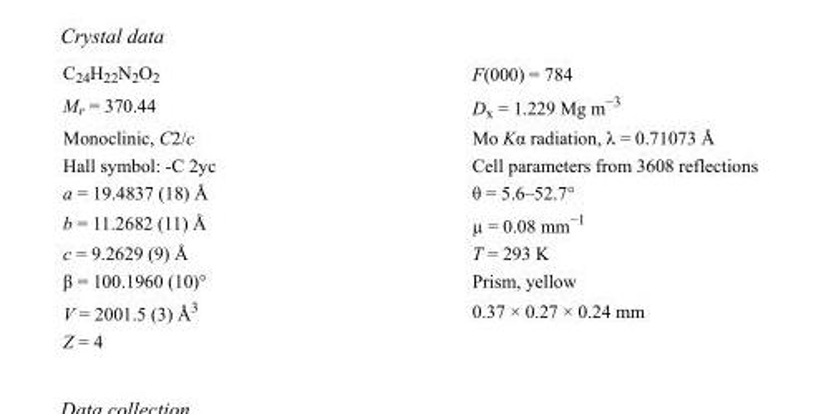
<table><tbody><tr><td>C<sub>24</sub>H<sub>22</sub>N<sub>2</sub>O<sub>2</sub></td><td>F(000) = 784</td></tr><tr><td>M<sub>r</sub> = 370.44</td><td>D<sub>x</sub> = 1.229 Mg m<sup>−3</sup></td></tr><tr><td>Monoclinic, C2/c</td><td>Mo Kα radiation, λ = 0.71073 Å</td></tr><tr><td>Hall symbol: -C 2yc</td><td>Cell parameters from 3608 reflections</td></tr><tr><td>a = 19.4837 (18) Å</td><td>θ = 5.6–52.7°</td></tr><tr><td>b = 11.2682 (11) Å</td><td>µ = 0.08 mm<sup>−1</sup></td></tr><tr><td>c = 9.2629 (9) Å</td><td>T = 293 K</td></tr><tr><td>β = 100.1960 (10)°</td><td>Prism, yellow</td></tr><tr><td>V = 2001.5 (3) Å<sup>3</sup></td><td>0.37 × 0.27 × 0.24 mm</td></tr><tr><td>Z = 4</td><td></td></tr></tbody></table>